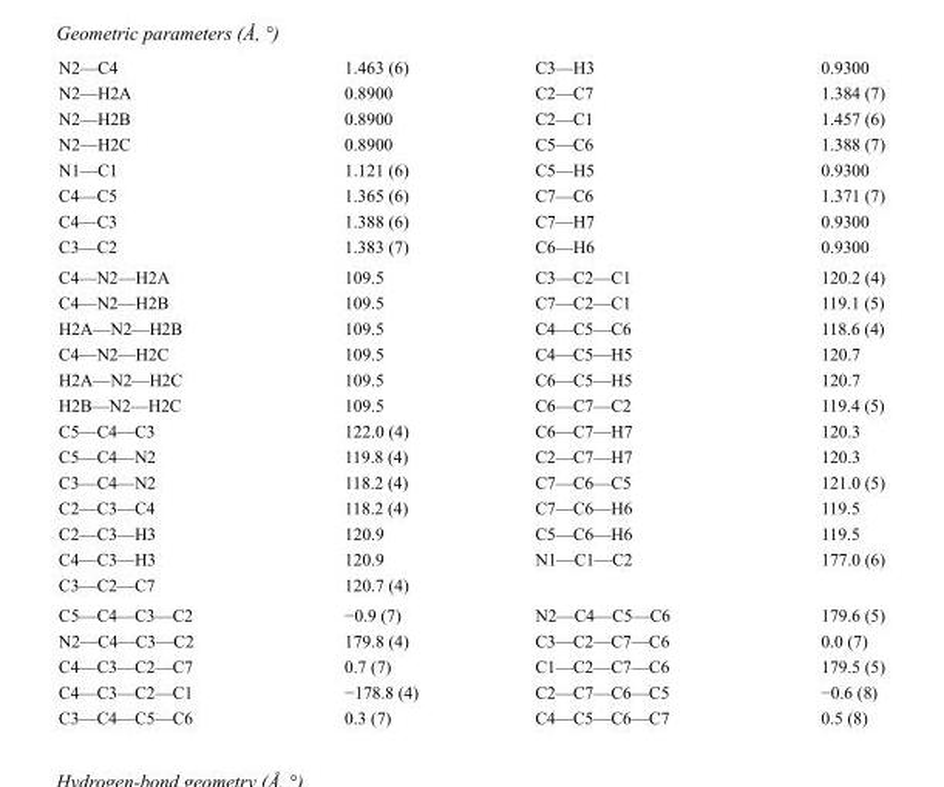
<table><tbody><tr><td>N2—C4</td><td>1.463 (6)</td><td>C3—H3</td><td>0.9300</td></tr><tr><td>N2—H2A</td><td>0.8900</td><td>C2—C7</td><td>1.384 (7)</td></tr><tr><td>N2—H2B</td><td>0.8900</td><td>C2—C1</td><td>1.457 (6)</td></tr><tr><td>N2—H2C</td><td>0.8900</td><td>C5—C6</td><td>1.388 (7)</td></tr><tr><td>N1—C1</td><td>1.121 (6)</td><td>C5—H5</td><td>0.9300</td></tr><tr><td>C4—C5</td><td>1.365 (6)</td><td>C7—C6</td><td>1.371 (7)</td></tr><tr><td>C4—C3</td><td>1.388 (6)</td><td>C7—H7</td><td>0.9300</td></tr><tr><td>C3—C2</td><td>1.383 (7)</td><td>C6—H6</td><td>0.9300</td></tr><tr><td>C4—N2—H2A</td><td>109.5</td><td>C3—C2—C1</td><td>120.2 (4)</td></tr><tr><td>C4—N2—H2B</td><td>109.5</td><td>C7—C2—C1</td><td>119.1 (5)</td></tr><tr><td>H2A—N2—H2B</td><td>109.5</td><td>C4—C5—C6</td><td>118.6 (4)</td></tr><tr><td>C4—N2—H2C</td><td>109.5</td><td>C4—C5—H5</td><td>120.7</td></tr><tr><td>H2A—N2—H2C</td><td>109.5</td><td>C6—C5—H5</td><td>120.7</td></tr><tr><td>H2B—N2—H2C</td><td>109.5</td><td>C6—C7—C2</td><td>119.4 (5)</td></tr><tr><td>C5—C4—C3</td><td>122.0 (4)</td><td>C6—C7—H7</td><td>120.3</td></tr><tr><td>C5—C4—N2</td><td>119.8 (4)</td><td>C2—C7—H7</td><td>120.3</td></tr><tr><td>C3—C4—N2</td><td>118.2 (4)</td><td>C7—C6—C5</td><td>121.0 (5)</td></tr><tr><td>C2—C3—C4</td><td>118.2 (4)</td><td>C7—C6—H6</td><td>119.5</td></tr><tr><td>C2—C3—H3</td><td>120.9</td><td>C5—C6—H6</td><td>119.5</td></tr><tr><td>C4—C3—H3</td><td>120.9</td><td>N1—C1—C2</td><td>177.0 (6)</td></tr><tr><td>C3—C2—C7</td><td>120.7 (4)</td><td></td><td></td></tr><tr><td>C5—C4—C3—C2</td><td>−0.9 (7)</td><td>N2—C4—C5—C6</td><td>179.6 (5)</td></tr><tr><td>N2—C4—C3—C2</td><td>179.8 (4)</td><td>C3—C2—C7—C6</td><td>0.0 (7)</td></tr><tr><td>C4—C3—C2—C7</td><td>0.7 (7)</td><td>C1—C2—C7—C6</td><td>179.5 (5)</td></tr><tr><td>C4—C3—C2—C1</td><td>−178.8 (4)</td><td>C2—C7—C6—C5</td><td>−0.6 (8)</td></tr><tr><td>C3—C4—C5—C6</td><td>0.3 (7)</td><td>C4—C5—C6—C7</td><td>0.5 (8)</td></tr></tbody></table>